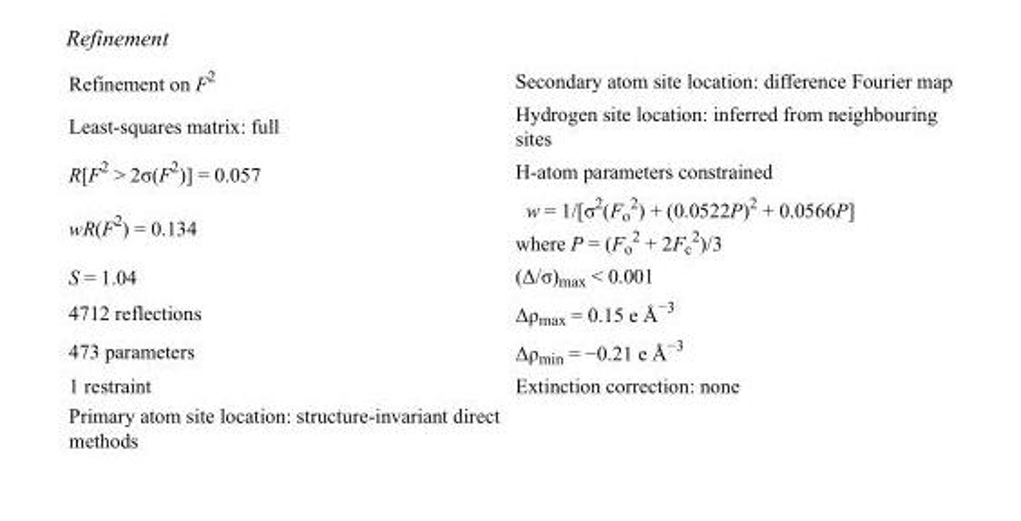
<table><tbody><tr><td>Refinement on F<sup>2</sup></td><td>Secondary atom site location: difference Fourier map</td></tr><tr><td>Least-squares matrix: full</td><td>Hydrogen site location: inferred from neighbouring sites</td></tr><tr><td>R[F<sup>2</sup> &gt; 2σ(F<sup>2</sup>)] = 0.057</td><td>H-atom parameters constrained</td></tr><tr><td>wR(F<sup>2</sup>) = 0.134</td><td>w = 1/[σ<sup>2</sup>(F<sub>o</sub> <sup>2</sup>) + (0.0522P)<sup>2</sup> + 0.0566P] where P = (F<sub>o</sub> <sup>2</sup> + 2F<sub>c</sub> <sup>2</sup>)/3</td></tr><tr><td>S = 1.04</td><td>(Δ/σ)<sub>max</sub> &lt; 0.001</td></tr><tr><td>4712 reflections</td><td>Δρ<sub>max</sub> = 0.15 e Å<sup>−3</sup></td></tr><tr><td>473 parameters</td><td>Δρ<sub>min</sub> = −0.21 e Å<sup>−3</sup></td></tr><tr><td>1 restraint</td><td>Extinction correction: none</td></tr><tr><td>Primary atom site location: structure-invariant direct methods</td><td></td></tr></tbody></table>